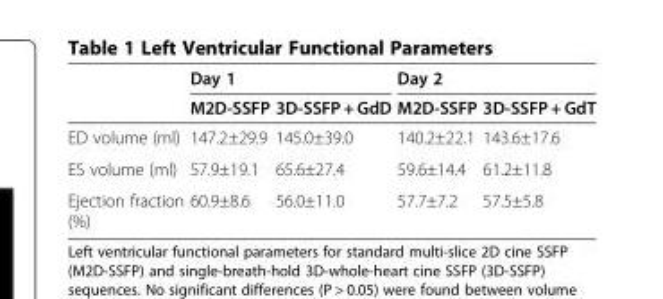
<table><thead><tr><td rowspan="2"></td><td colspan="2">Day 1</td><td colspan="2">Day 2</td></tr><tr><td>M2D-SSFP</td><td>3D-SSFP + GdD</td><td>M2D-SSFP</td><td>3D-SSFP + GdT</td></tr></thead><tbody><tr><td>ED volume (ml)</td><td>147.2±29.9</td><td>145.0±39.0</td><td>140.2±22.1</td><td>143.6±17.6</td></tr><tr><td>ES volume (ml)</td><td>57.9±19.1</td><td>65.6±27.4</td><td>59.6±14.4</td><td>61.2±11.8</td></tr><tr><td>Ejection fraction (%)</td><td>60.9±8.6</td><td>56.0±11.0</td><td>57.7±7.2</td><td>57.5±5.8</td></tr></tbody></table>